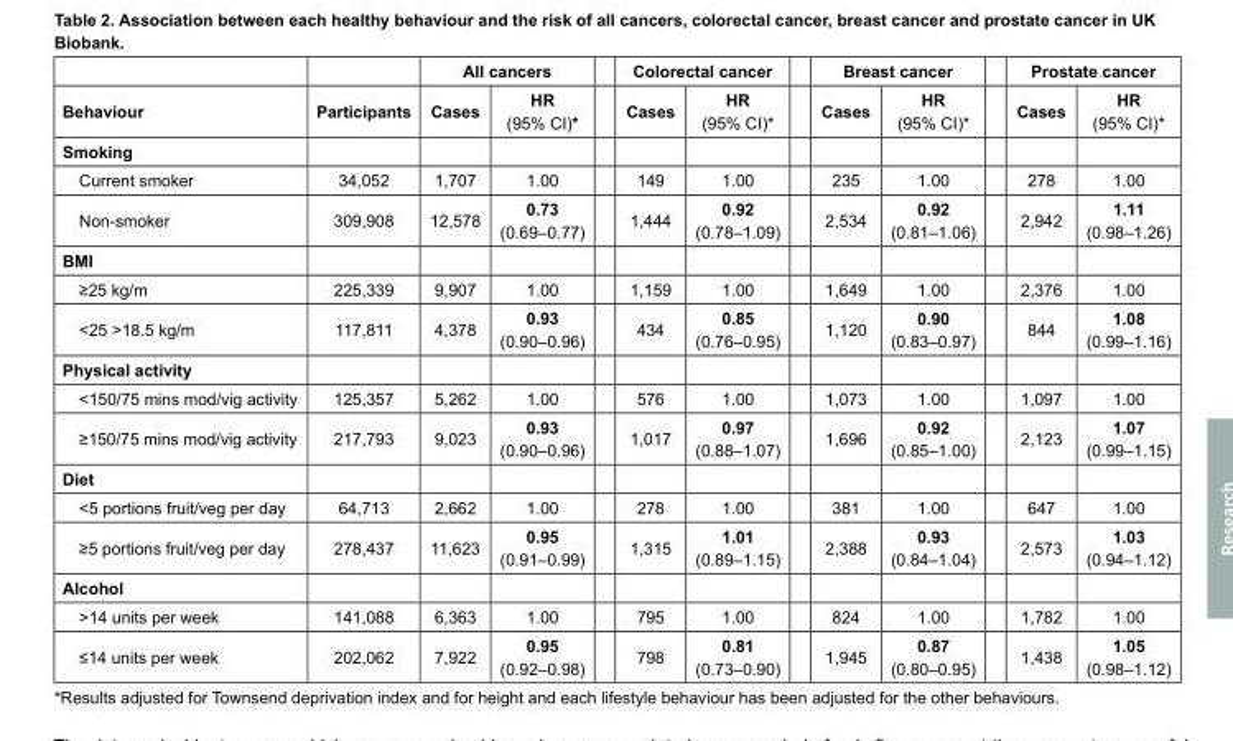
<table><thead><tr><td rowspan="2">Behaviour</td><td rowspan="2">Participants</td><td colspan="2">All cancers</td><td colspan="2">Colorectal cancer</td><td colspan="2">Breast cancer</td><td colspan="2">Prostate cancer</td></tr><tr><td>Cases</td><td>HR (95% CI)*</td><td>Cases</td><td>HR (95% CI)*</td><td>Cases</td><td>HR (95% CI)*</td><td>Cases</td><td>HR (95% CI)*</td></tr></thead><tbody><tr><td colspan="10">Smoking</td></tr><tr><td>Current smoker</td><td>34,052</td><td>1,707</td><td>1.00</td><td>149</td><td>1.00</td><td>235</td><td>1.00</td><td>278</td><td>1.00</td></tr><tr><td>Non-smoker</td><td>309,908</td><td>12,578</td><td>0.73 (0.69–0.77)</td><td>1,444</td><td>0.92 (0.78–1.09)</td><td>2,534</td><td>0.92 (0.81–1.06)</td><td>2,942</td><td>1.11 (0.98–1.26)</td></tr><tr><td colspan="10">BMI</td></tr><tr><td>≥25 kg/m</td><td>225,339</td><td>9,907</td><td>1.00</td><td>1,159</td><td>1.00</td><td>1,649</td><td>1.00</td><td>2,376</td><td>1.00</td></tr><tr><td>&lt;25 &gt;18.5 kg/m</td><td>117,811</td><td>4,378</td><td>0.93 (0.90–0.96)</td><td>434</td><td>0.85 (0.76–0.95)</td><td>1,120</td><td>0.90 (0.83–0.97)</td><td>844</td><td>1.08 (0.99–1.16)</td></tr><tr><td colspan="10">Physical activity</td></tr><tr><td>&lt;150/75 mins mod/vig activity</td><td>125,357</td><td>5,262</td><td>1.00</td><td>576</td><td>1.00</td><td>1,073</td><td>1.00</td><td>1,097</td><td>1.00</td></tr><tr><td>≥150/75 mins mod/vig activity</td><td>217,793</td><td>9,023</td><td>0.93 (0.90–0.96)</td><td>1,017</td><td>0.97 (0.88–1.07)</td><td>1,696</td><td>0.92 (0.85–1.00)</td><td>2,123</td><td>1.07 (0.99–1.15)</td></tr><tr><td colspan="10">Diet</td></tr><tr><td>&lt;5 portions fruit/veg per day</td><td>64,713</td><td>2,662</td><td>1.00</td><td>278</td><td>1.00</td><td>381</td><td>1.00</td><td>647</td><td>1.00</td></tr><tr><td>≥5 portions fruit/veg per day</td><td>278,437</td><td>11,623</td><td>0.95 (0.91–0.99)</td><td>1,315</td><td>1.01 (0.89–1.15)</td><td>2,388</td><td>0.93 (0.84–1.04)</td><td>2,573</td><td>1.03 (0.94–1.12)</td></tr><tr><td colspan="10">Alcohol</td></tr><tr><td>&gt;14 units per week</td><td>141,088</td><td>6,363</td><td>1.00</td><td>795</td><td>1.00</td><td>824</td><td>1.00</td><td>1,782</td><td>1.00</td></tr><tr><td>≤14 units per week</td><td>202,062</td><td>7,922</td><td>0.95 (0.92–0.98)</td><td>798</td><td>0.81 (0.73–0.90)</td><td>1,945</td><td>0.87 (0.80–0.95)</td><td>1,438</td><td>1.05 (0.98–1.12)</td></tr></tbody></table>